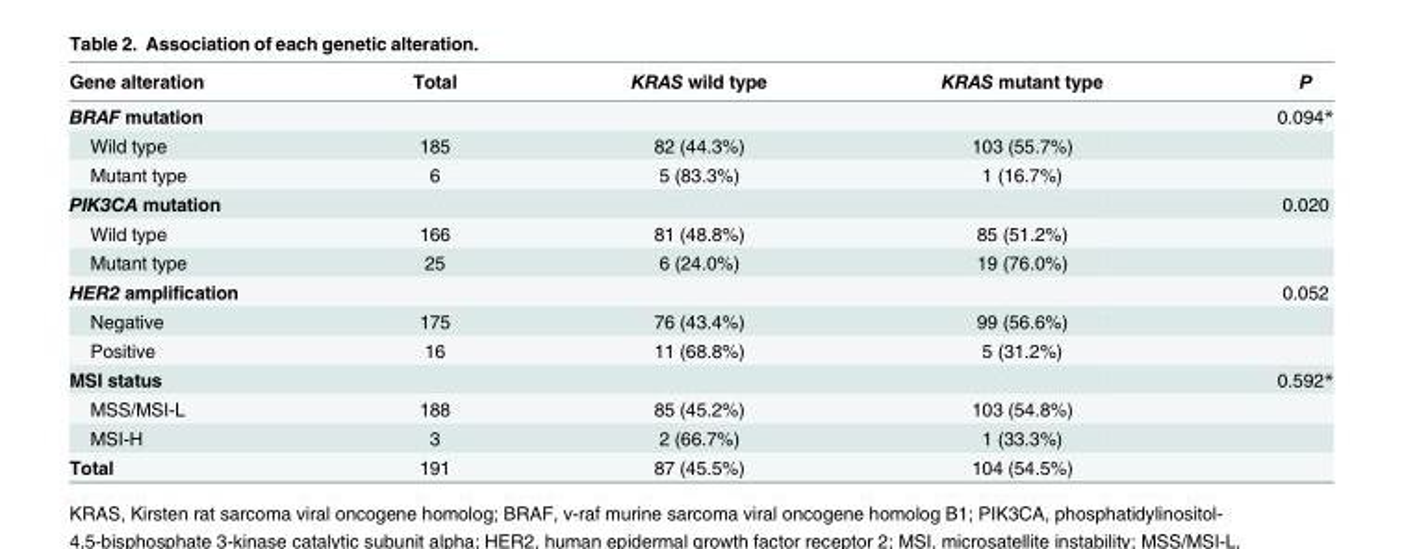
<table><thead><tr><td>Gene alteration</td><td>Total</td><td>KRAS wild type</td><td>KRAS mutant type</td><td>P</td></tr></thead><tbody><tr><td>BRAF mutation</td><td></td><td></td><td></td><td>0.094*</td></tr><tr><td>Wild type</td><td>185</td><td>82 (44.3%)</td><td>103 (55.7%)</td><td></td></tr><tr><td>Mutant type</td><td>6</td><td>5 (83.3%)</td><td>1 (16.7%)</td><td></td></tr><tr><td>PIK3CA mutation</td><td></td><td></td><td></td><td>0.020</td></tr><tr><td>Wild type</td><td>166</td><td>81 (48.8%)</td><td>85 (51.2%)</td><td></td></tr><tr><td>Mutant type</td><td>25</td><td>6 (24.0%)</td><td>19 (76.0%)</td><td></td></tr><tr><td>HER2 amplification</td><td></td><td></td><td></td><td>0.052</td></tr><tr><td>Negative</td><td>175</td><td>76 (43.4%)</td><td>99 (56.6%)</td><td></td></tr><tr><td>Positive</td><td>16</td><td>11 (68.8%)</td><td>5 (31.2%)</td><td></td></tr><tr><td>MSI status</td><td></td><td></td><td></td><td>0.592*</td></tr><tr><td>MSS/MSI-L</td><td>188</td><td>85 (45.2%)</td><td>103 (54.8%)</td><td></td></tr><tr><td>MSI-H</td><td>3</td><td>2 (66.7%)</td><td>1 (33.3%)</td><td></td></tr><tr><td>Total</td><td>191</td><td>87 (45.5%)</td><td>104 (54.5%)</td><td></td></tr></tbody></table>